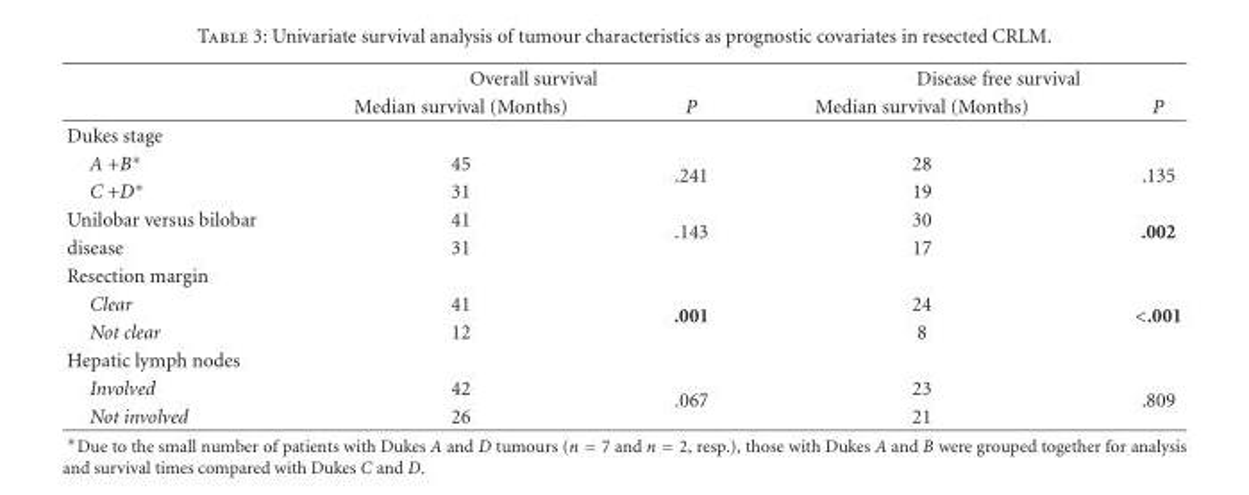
<table><thead><tr><td rowspan="2"></td><td colspan="2">Overall survival</td><td colspan="2">Disease free survival</td></tr><tr><td>Median survival (Months)</td><td>P</td><td>Median survival (Months)</td><td>P</td></tr></thead><tbody><tr><td colspan="5">Dukes stage</td></tr><tr><td>A +B∗</td><td>45</td><td rowspan="2">.241</td><td>28</td><td rowspan="2">.135</td></tr><tr><td>C +D∗</td><td>31</td><td>19</td></tr><tr><td>Unilobar versus bilobar</td><td>41</td><td rowspan="2">.143</td><td>30</td><td rowspan="2">.002</td></tr><tr><td>disease</td><td>31</td><td>17</td></tr><tr><td colspan="5">Resection margin</td></tr><tr><td>Clear</td><td>41</td><td rowspan="2">.001</td><td>24</td><td rowspan="2">&lt;.001</td></tr><tr><td>Not clear</td><td>12</td><td>8</td></tr><tr><td colspan="5">Hepatic lymph nodes</td></tr><tr><td>Involved</td><td>42</td><td rowspan="2">.067</td><td>23</td><td rowspan="2">.809</td></tr><tr><td>Not involved</td><td>26</td><td>21</td></tr></tbody></table>